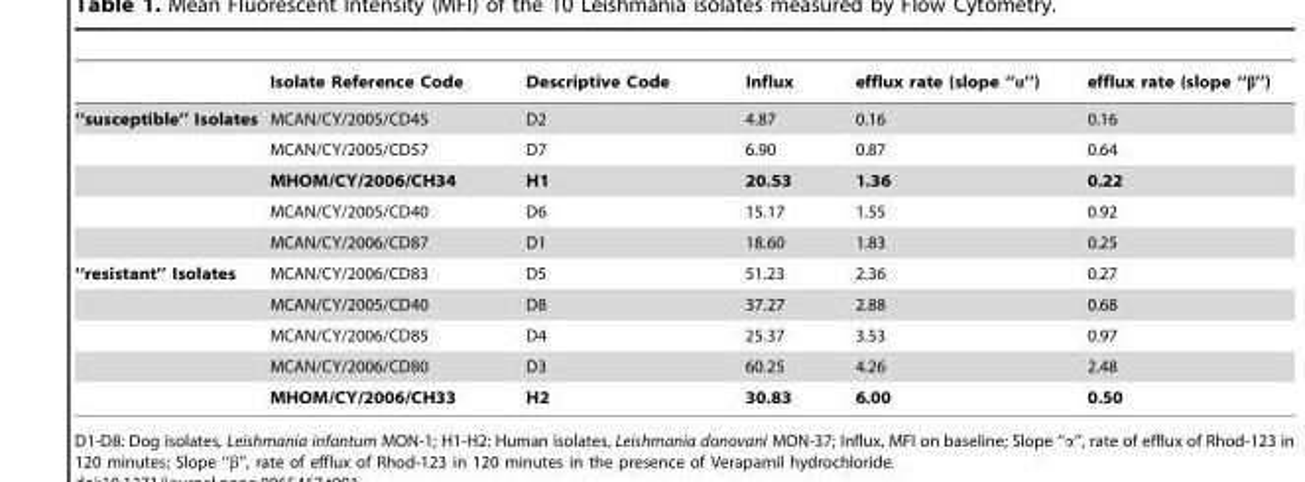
<table><thead><tr><td></td><td>Isolate Reference Code</td><td>Descriptive Code</td><td>Influx</td><td>efflux rate (slope ‘‘a’’)</td><td>efflux rate (slope</td></tr></thead><tbody><tr><td rowspan="5">‘‘susceptible’’ Isolates</td><td>MCAN/CY/2005/CD45</td><td>D2</td><td>4.87</td><td>0.16</td><td>0.16</td></tr><tr><td>MCAN/CY/2005/CD57</td><td>D7</td><td>6.90</td><td>0.87</td><td>0.64</td></tr><tr><td>MHOM/CY/2006/CH34</td><td>H1</td><td>20.53</td><td>1.36</td><td>0.22</td></tr><tr><td>MCAN/CY/2005/CD40</td><td>D6</td><td>15.17</td><td>1.55</td><td>0.92</td></tr><tr><td>MCAN/CY/2006/CD87</td><td>D1</td><td>18.60</td><td>1.83</td><td>0.25</td></tr><tr><td rowspan="5">‘‘resistant’’ Isolates</td><td>MCAN/CY/2006/CD83</td><td>D5</td><td>51.23</td><td>2.36</td><td>0.27</td></tr><tr><td>MCAN/CY/2005/CD40</td><td>D8</td><td>37.27</td><td>2.88</td><td>0.68</td></tr><tr><td>MCAN/CY/2006/CD85</td><td>D4</td><td>25.37</td><td>3.53</td><td>0.97</td></tr><tr><td>MCAN/CY/2006/CD80</td><td>D3</td><td>60.25</td><td>4.26</td><td>2.48</td></tr><tr><td>MHOM/CY/2006/CH33</td><td>H2</td><td>30.83</td><td>6.00</td><td>0.50</td></tr></tbody></table>